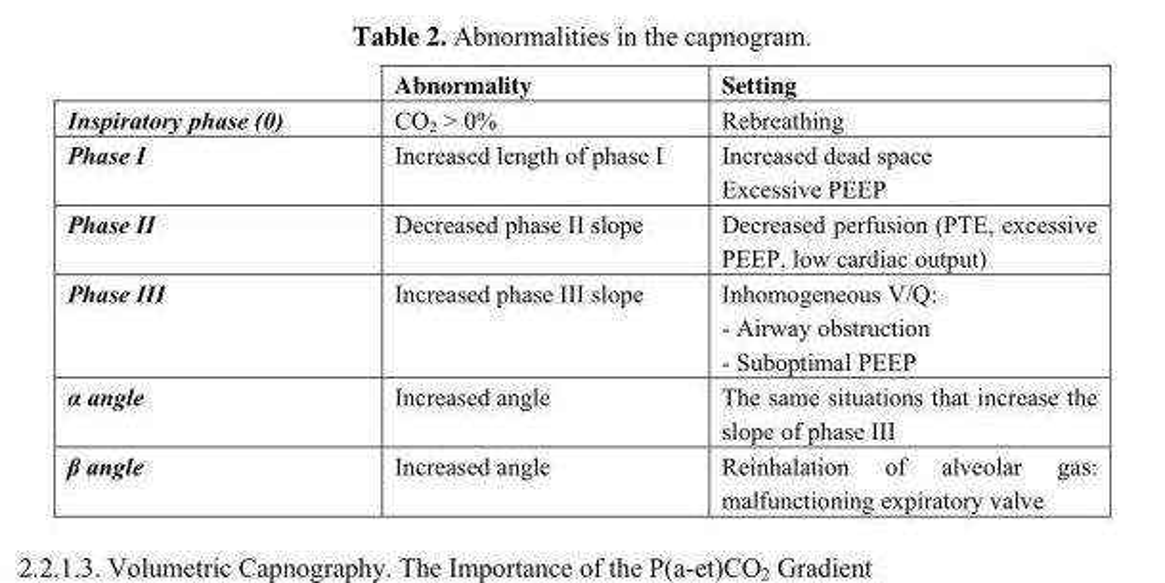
<table><thead><tr><td></td><td>Abnormality</td><td>Setting</td></tr></thead><tbody><tr><td>Inspiratory phase (0)</td><td>CO<sub>2</sub> &gt; 0%</td><td>Rebreathing</td></tr><tr><td>Phase I</td><td>Increased length of phase I</td><td>Increased dead space Excessive PEEP</td></tr><tr><td>Phase II</td><td>Decreased phase II slope</td><td>Decreased perfusion (PTE, excessive PEEP, low cardiac output)</td></tr><tr><td>Phase III</td><td>Increased phase III slope</td><td>Inhomogeneous V/Q: - Airway obstruction - Suboptimal PEEP</td></tr><tr><td>α angle</td><td>Increased angle</td><td>The same situations that increase the slope of phase III</td></tr><tr><td>β angle</td><td>Increased angle</td><td>Reinhalation of alveolar gas: malfunctioning expiratory valve</td></tr></tbody></table>